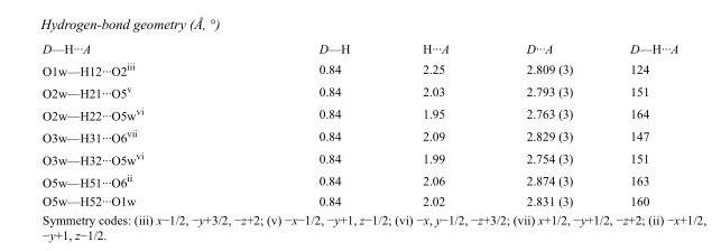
<table><tbody><tr><td>D—H···A</td><td>D—H</td><td>H···A</td><td>D···A</td><td>D—H···A</td></tr><tr><td>O1w—H12···O2<sup>iii</sup></td><td>0.84</td><td>2.25</td><td>2.809 (3)</td><td>124</td></tr><tr><td>O2w—H21···O5<sup>v</sup></td><td>0.84</td><td>2.03</td><td>2.793 (3)</td><td>151</td></tr><tr><td>O2w—H22···O5w<sup>vi</sup></td><td>0.84</td><td>1.95</td><td>2.763 (3)</td><td>164</td></tr><tr><td>O3w—H31···O6<sup>vii</sup></td><td>0.84</td><td>2.09</td><td>2.829 (3)</td><td>147</td></tr><tr><td>O3w—H32···O5w<sup>vi</sup></td><td>0.84</td><td>1.99</td><td>2.754 (3)</td><td>151</td></tr><tr><td>O5w—H51···O6<sup>ii</sup></td><td>0.84</td><td>2.06</td><td>2.874 (3)</td><td>163</td></tr><tr><td>O5w—H52···O1w</td><td>0.84</td><td>2.02</td><td>2.831 (3)</td><td>160</td></tr></tbody></table>